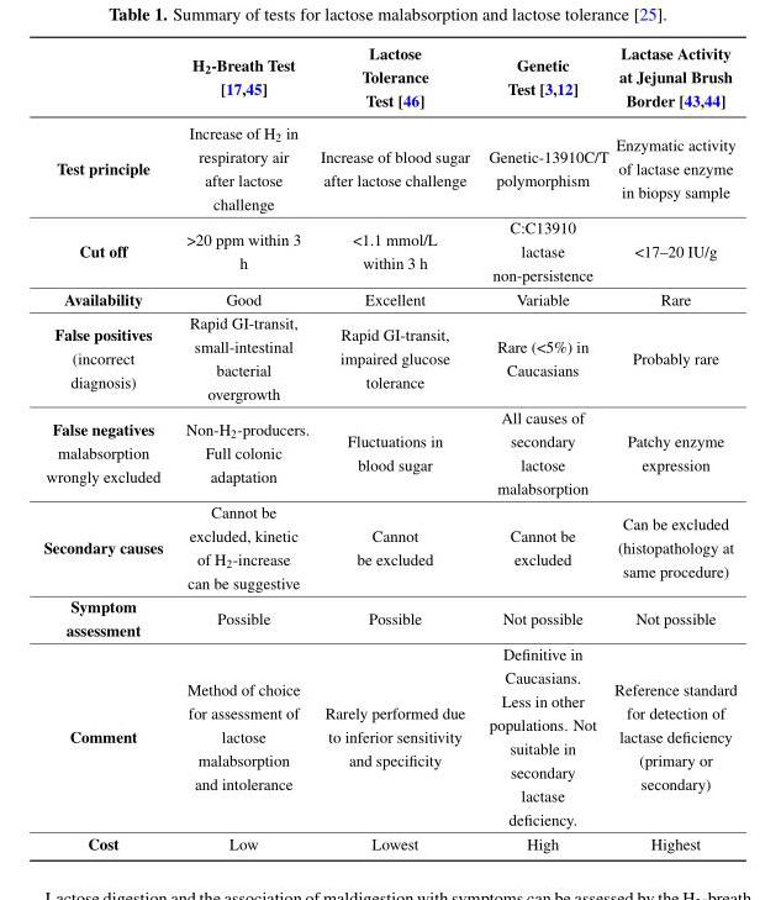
<table><thead><tr><td></td><td>H<sub>2</sub>-Breath Test [17,45]</td><td>Lactose Tolerance Test [46]</td><td>Genetic Test [3,12]</td><td>Lactase Activity at Jejunal Brush Border [43,44]</td></tr></thead><tbody><tr><td>Test principle</td><td>Increase of H<sub>2</sub> in respiratory air after lactose challenge</td><td>Increase of blood sugar after lactose challenge</td><td>Genetic-13910C/T polymorphism</td><td>Enzymatic activity of lactase enzyme in biopsy sample</td></tr><tr><td>Cut off</td><td>&gt;20 ppm within 3 h</td><td>&lt;1.1 mmol/L within 3 h</td><td>C:C13910 lactase non-persistence</td><td>&lt;17–20 IU/g</td></tr><tr><td>Availability</td><td>Good</td><td>Excellent</td><td>Variable</td><td>Rare</td></tr><tr><td>False positives (incorrect diagnosis)</td><td>Rapid GI-transit, small-intestinal bacterial overgrowth</td><td>Rapid GI-transit, impaired glucose tolerance</td><td>Rare (&lt;5%) in Caucasians</td><td>Probably rare</td></tr><tr><td>False negatives malabsorption wrongly excluded</td><td>Non-H<sub>2</sub>-producers. Full colonic adaptation</td><td>Fluctuations in blood sugar</td><td>All causes of secondary lactose malabsorption</td><td>Patchy enzyme expression</td></tr><tr><td>Secondary causes</td><td>Cannot be excluded, kinetic of H<sub>2</sub>-increase can be suggestive</td><td>Cannot be excluded</td><td>Cannot be excluded</td><td>Can be excluded (histopathology at same procedure)</td></tr><tr><td>Symptom assessment</td><td>Possible</td><td>Possible</td><td>Not possible</td><td>Not possible</td></tr><tr><td>Comment</td><td>Method of choice for assessment of lactose malabsorption and intolerance</td><td>Rarely performed due to inferior sensitivity and specificity</td><td>Definitive in Caucasians. Less in other populations. Not suitable in secondary lactase deficiency.</td><td>Reference standard for detection of lactase deficiency (primary or secondary)</td></tr><tr><td>Cost</td><td>Low</td><td>Lowest</td><td>High</td><td>Highest</td></tr></tbody></table>